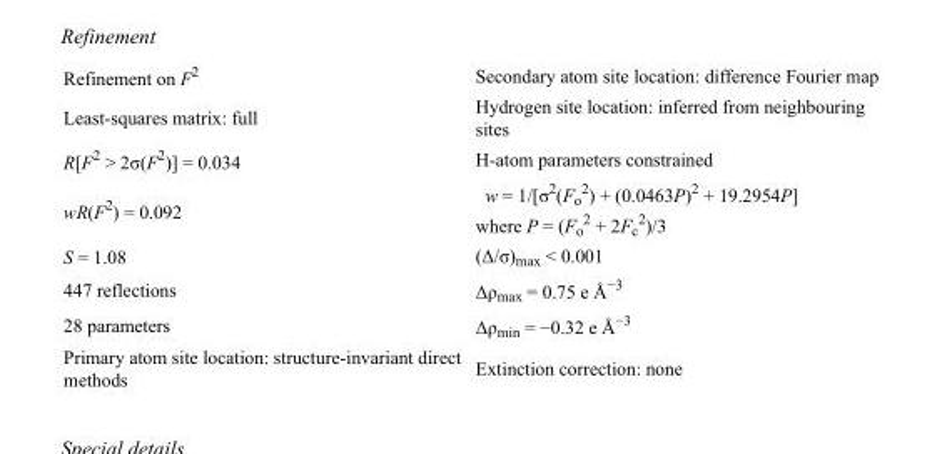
<table><tbody><tr><td>Refinement on F<sup>2</sup></td><td>Secondary atom site location: difference Fourier map</td></tr><tr><td>Least-squares matrix: full</td><td>Hydrogen site location: inferred from neighbouring sites</td></tr><tr><td>R[F<sup>2</sup> &gt; 2σ(F<sup>2</sup>)] = 0.034</td><td>H-atom parameters constrained</td></tr><tr><td>wR(F<sup>2</sup>) = 0.092</td><td>w = 1/[σ<sup>2</sup>(F<sub>o</sub> <sup>2</sup>) + (0.0463P)<sup>2</sup> + 19.2954P] where P = (F<sub>o</sub> <sup>2</sup> + 2F<sub>c</sub> <sup>2</sup>)/3</td></tr><tr><td>S = 1.08</td><td>(Δ/σ)<sub>max</sub> &lt; 0.001</td></tr><tr><td>447 reflections</td><td>Δρ<sub>max</sub> = 0.75 e Å<sup>−3</sup></td></tr><tr><td>28 parameters</td><td>Δρ<sub>min</sub> = −0.32 e Å<sup>−3</sup></td></tr><tr><td>Primary atom site location: structure-invariant direct methods</td><td>Extinction correction: none</td></tr></tbody></table>